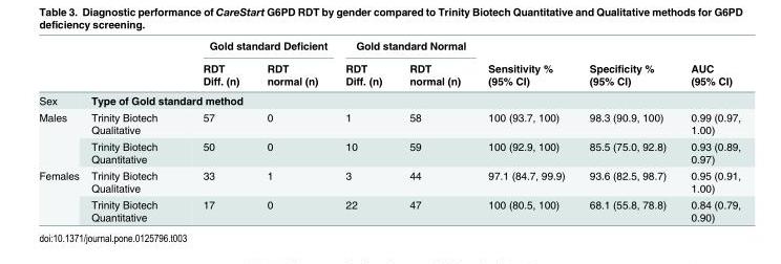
<table><thead><tr><td rowspan="2"></td><td rowspan="2"></td><td colspan="2">Gold standard Deficient</td><td colspan="2">Gold standard Normal</td><td rowspan="2">Sensitivity % (95% CI)</td><td rowspan="2">Specificity % (95% CI)</td><td rowspan="2">AUC (95% CI)</td></tr><tr><td>RDT Diff. (n)</td><td>RDT normal (n)</td><td>RDT Diff. (n)</td><td>RDT normal (n)</td></tr></thead><tbody><tr><td>Sex</td><td colspan="8">Type of Gold standard method</td></tr><tr><td rowspan="2">Males</td><td>Trinity Biotech Qualitative</td><td>57</td><td>0</td><td>1</td><td>58</td><td>100 (93.7, 100)</td><td>98.3 (90.9, 100)</td><td>0.99 (0.97, 1.00)</td></tr><tr><td>Trinity Biotech Quantitative</td><td>50</td><td>0</td><td>10</td><td>59</td><td>100 (92.9, 100)</td><td>85.5 (75.0, 92.8)</td><td>0.93 (0.89, 0.97)</td></tr><tr><td rowspan="2">Females</td><td>Trinity Biotech Qualitative</td><td>33</td><td>1</td><td>3</td><td>44</td><td>97.1 (84.7, 99.9)</td><td>93.6 (82.5, 98.7)</td><td>0.95 (0.91, 1.00)</td></tr><tr><td>Trinity Biotech Quantitative</td><td>17</td><td>0</td><td>22</td><td>47</td><td>100 (80.5, 100)</td><td>68.1 (55.8, 78.8)</td><td>0.84 (0.79, 0.90)</td></tr></tbody></table>